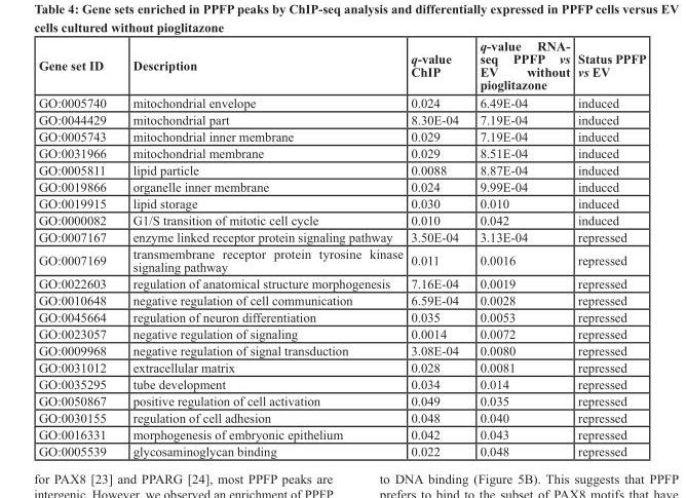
<table><thead><tr><td>Gene set ID</td><td>Description</td><td>q-value ChIP</td><td>q-value RNA- seq PPFP vs EV without pioglitazone</td><td>Status PPFP vs EV</td></tr></thead><tbody><tr><td>GO:0005740</td><td>mitochondrial envelope</td><td>0.024</td><td>6.49E-04</td><td>induced</td></tr><tr><td>GO:0044429</td><td>mitochondrial part</td><td>8.30E-04</td><td>7.19E-04</td><td>induced</td></tr><tr><td>GO:0005743</td><td>mitochondrial inner membrane</td><td>0.029</td><td>7.19E-04</td><td>induced</td></tr><tr><td>GO:0031966</td><td>mitochondrial membrane</td><td>0.029</td><td>8.51E-04</td><td>induced</td></tr><tr><td>GO:0005811</td><td>lipid particle</td><td>0.0088</td><td>8.87E-04</td><td>induced</td></tr><tr><td>GO:0019866</td><td>organelle inner membrane</td><td>0.024</td><td>9.99E-04</td><td>induced</td></tr><tr><td>GO:0019915</td><td>lipid storage</td><td>0.030</td><td>0.010</td><td>induced</td></tr><tr><td>GO:0000082</td><td>G1/S transition of mitotic cell cycle</td><td>0.010</td><td>0.042</td><td>induced</td></tr><tr><td>GO:0007167</td><td>enzyme linked receptor protein signaling pathway</td><td>3.50E-04</td><td>3.13E-04</td><td>repressed</td></tr><tr><td>GO:0007169</td><td>transmembrane receptor protein tyrosine kinase signaling pathway</td><td>0.011</td><td>0.0016</td><td>repressed</td></tr><tr><td>GO:0022603</td><td>regulation of anatomical structure morphogenesis</td><td>7.16E-04</td><td>0.0019</td><td>repressed</td></tr><tr><td>GO:0010648</td><td>negative regulation of cell communication</td><td>6.59E-04</td><td>0.0028</td><td>repressed</td></tr><tr><td>GO:0045664</td><td>regulation of neuron differentiation</td><td>0.035</td><td>0.0053</td><td>repressed</td></tr><tr><td>GO:0023057</td><td>negative regulation of signaling</td><td>0.0014</td><td>0.0072</td><td>repressed</td></tr><tr><td>GO:0009968</td><td>negative regulation of signal transduction</td><td>3.08E-04</td><td>0.0080</td><td>repressed</td></tr><tr><td>GO:0031012</td><td>extracellular matrix</td><td>0.028</td><td>0.0081</td><td>repressed</td></tr><tr><td>GO:0035295</td><td>tube development</td><td>0.034</td><td>0.014</td><td>repressed</td></tr><tr><td>GO:0050867</td><td>positive regulation of cell activation</td><td>0.049</td><td>0.035</td><td>repressed</td></tr><tr><td>GO:0030155</td><td>regulation of cell adhesion</td><td>0.048</td><td>0.040</td><td>repressed</td></tr><tr><td>GO:0016331</td><td>morphogenesis of embryonic epithelium</td><td>0.042</td><td>0.043</td><td>repressed</td></tr><tr><td>GO:0005539</td><td>glycosaminoglycan binding</td><td>0.022</td><td>0.048</td><td>repressed</td></tr></tbody></table>